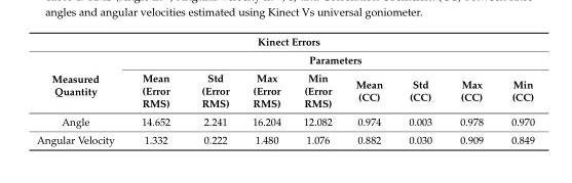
<table><thead><tr><td colspan="9">Kinect Errors</td></tr><tr><td rowspan="2">Measured Quantity</td><td colspan="8">Parameters</td></tr><tr><td>Mean (Error RMS)</td><td>Std (Error RMS)</td><td>Max (Error RMS)</td><td>Min (Error RMS)</td><td>Mean (CC)</td><td>Std (CC)</td><td>Max (CC)</td><td>Min (CC)</td></tr></thead><tbody><tr><td>Angle</td><td>14.652</td><td>2.241</td><td>16.204</td><td>12.082</td><td>0.974</td><td>0.003</td><td>0.978</td><td>0.970</td></tr><tr><td>Angular Velocity</td><td>1.332</td><td>0.222</td><td>1.480</td><td>1.076</td><td>0.882</td><td>0.030</td><td>0.909</td><td>0.849</td></tr></tbody></table>